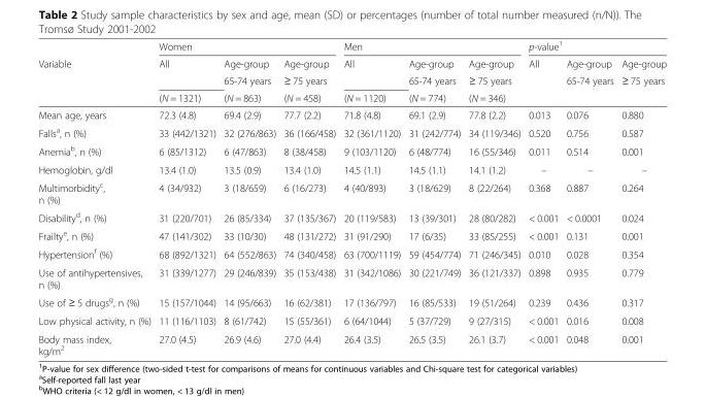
<table><thead><tr><td rowspan="4">Variable</td><td colspan="3">Women</td><td colspan="3">Men</td><td colspan="3">p-value<sup>1</sup></td></tr><tr><td rowspan="3">All (N = 1321)</td><td rowspan="3">Age-group 65-74 years (N = 863)</td><td rowspan="3">Age-group ≥ 75 years (N = 458)</td><td rowspan="3">All (N = 1120)</td><td rowspan="3">Age-group 65-74 years (N = 774)</td><td rowspan="3">Age-group ≥ 75 years (N = 346)</td><td rowspan="3">All</td><td rowspan="3">Age-group 65-74 years</td><td rowspan="3">Age-group ≥ 75 years</td></tr><tr></tr><tr></tr></thead><tbody><tr><td>Mean age, years</td><td>72.3 (4.8)</td><td>69.4 (2.9)</td><td>77.7 (2.2)</td><td>71.8 (4.8)</td><td>69.1 (2.9)</td><td>77.8 (2.2)</td><td>0.013</td><td>0.076</td><td>0.880</td></tr><tr><td>Falls<sup>a</sup>, n (%)</td><td>33 (442/1321)</td><td>32 (276/863)</td><td>36 (166/458)</td><td>32 (361/1120)</td><td>31 (242/774)</td><td>34 (119/346)</td><td>0.520</td><td>0.756</td><td>0.587</td></tr><tr><td>Anemia<sup>b</sup>, n (%)</td><td>6 (85/1312)</td><td>6 (47/863)</td><td>8 (38/458)</td><td>9 (103/1120)</td><td>6 (48/774)</td><td>16 (55/346)</td><td>0.011</td><td>0.514</td><td>0.001</td></tr><tr><td>Hemoglobin, g/dl</td><td>13.4 (1.0)</td><td>13.5 (0.9)</td><td>13.4 (1.0)</td><td>14.5 (1.1)</td><td>14.5 (1.1)</td><td>14.1 (1.2)</td><td>–</td><td>–</td><td>–</td></tr><tr><td>Multimorbidity<sup>c</sup>, n (%)</td><td>4 (34/932)</td><td>3 (18/659)</td><td>6 (16/273)</td><td>4 (40/893)</td><td>3 (18/629)</td><td>8 (22/264)</td><td>0.368</td><td>0.887</td><td>0.264</td></tr><tr><td>Disability<sup>d</sup>, n (%)</td><td>31 (220/701)</td><td>26 (85/334)</td><td>37 (135/367)</td><td>20 (119/583)</td><td>13 (39/301)</td><td>28 (80/282)</td><td>&lt; 0.001</td><td>&lt; 0.0001</td><td>0.024</td></tr><tr><td>Frailty<sup>e</sup>, n (%)</td><td>47 (141/302)</td><td>33 (10/30)</td><td>48 (131/272)</td><td>31 (91/290)</td><td>17 (6/35)</td><td>33 (85/255)</td><td>&lt; 0.001</td><td>0.131</td><td>0.001</td></tr><tr><td>Hypertension<sup>f</sup> (%)</td><td>68 (892/1321)</td><td>64 (552/863)</td><td>74 (340/458)</td><td>63 (700/1119)</td><td>59 (454/774)</td><td>71 (246/345)</td><td>0.010</td><td>0.028</td><td>0.354</td></tr><tr><td>Use of antihypertensives, n (%)</td><td>31 (339/1277)</td><td>29 (246/839)</td><td>35 (153/438)</td><td>31 (342/1086)</td><td>30 (221/749)</td><td>36 (121/337)</td><td>0.898</td><td>0.935</td><td>0.779</td></tr><tr><td>Use of ≥ 5 drugs<sup>g</sup>, n (%)</td><td>15 (157/1044)</td><td>14 (95/663)</td><td>16 (62/381)</td><td>17 (136/797)</td><td>16 (85/533)</td><td>19 (51/264)</td><td>0.239</td><td>0.436</td><td>0.317</td></tr><tr><td>Low physical activity, n (%)</td><td>11 (116/1103)</td><td>8 (61/742)</td><td>15 (55/361)</td><td>6 (64/1044)</td><td>5 (37/729)</td><td>9 (27/315)</td><td>&lt; 0.001</td><td>0.016</td><td>0.008</td></tr><tr><td>Body mass index, kg/m<sup>2</sup></td><td>27.0 (4.5)</td><td>26.9 (4.6)</td><td>27.0 (4.4)</td><td>26.4 (3.5)</td><td>26.5 (3.5)</td><td>26.1 (3.7)</td><td>&lt; 0.001</td><td>0.048</td><td>0.001</td></tr></tbody></table>